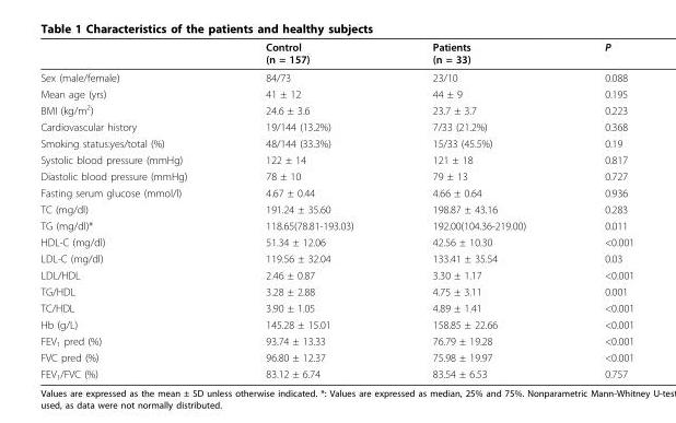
<table><thead><tr><td></td><td>Control (n = 157)</td><td>Patients (n = 33)</td><td>P</td></tr></thead><tbody><tr><td>Sex (male/female)</td><td>84/73</td><td>23/10</td><td>0.088</td></tr><tr><td>Mean age (yrs)</td><td>41 ± 12</td><td>44 ± 9</td><td>0.195</td></tr><tr><td>BMI (kg/m<sup>2</sup>)</td><td>24.6 ± 3.6</td><td>23.7 ± 3.7</td><td>0.223</td></tr><tr><td>Cardiovascular history</td><td>19/144 (13.2%)</td><td>7/33 (21.2%)</td><td>0.368</td></tr><tr><td>Smoking status:yes/total (%)</td><td>48/144 (33.3%)</td><td>15/33 (45.5%)</td><td>0.19</td></tr><tr><td>Systolic blood pressure (mmHg)</td><td>122 ± 14</td><td>121 ± 18</td><td>0.817</td></tr><tr><td>Diastolic blood pressure (mmHg)</td><td>78 ± 10</td><td>79 ± 13</td><td>0.727</td></tr><tr><td>Fasting serum glucose (mmol/l)</td><td>4.67 ± 0.44</td><td>4.66 ± 0.64</td><td>0.936</td></tr><tr><td>TC (mg/dl)</td><td>191.24 ± 35.60</td><td>198.87 ± 43.16</td><td>0.283</td></tr><tr><td>TG (mg/dl)*</td><td>118.65(78.81-193.03)</td><td>192.00(104.36-219.00)</td><td>0.011</td></tr><tr><td>HDL-C (mg/dl)</td><td>51.34 ± 12.06</td><td>42.56 ± 10.30</td><td>&lt;0.001</td></tr><tr><td>LDL-C (mg/dl)</td><td>119.56 ± 32.04</td><td>133.41 ± 35.54</td><td>0.03</td></tr><tr><td>LDL/HDL</td><td>2.46 ± 0.87</td><td>3.30 ± 1.17</td><td>&lt;0.001</td></tr><tr><td>TG/HDL</td><td>3.28 ± 2.88</td><td>4.75 ± 3.11</td><td>0.001</td></tr><tr><td>TC/HDL</td><td>3.90 ± 1.05</td><td>4.89 ± 1.41</td><td>&lt;0.001</td></tr><tr><td>Hb (g/L)</td><td>145.28 ± 15.01</td><td>158.85 ± 22.66</td><td>&lt;0.001</td></tr><tr><td>FEV<sub>1</sub> pred (%)</td><td>93.74 ± 13.33</td><td>76.79 ± 19.28</td><td>&lt;0.001</td></tr><tr><td>FVC pred (%)</td><td>96.80 ± 12.37</td><td>75.98 ± 19.97</td><td>&lt;0.001</td></tr><tr><td>FEV<sub>1</sub>/FVC (%)</td><td>83.12 ± 6.74</td><td>83.54 ± 6.53</td><td>0.757</td></tr></tbody></table>